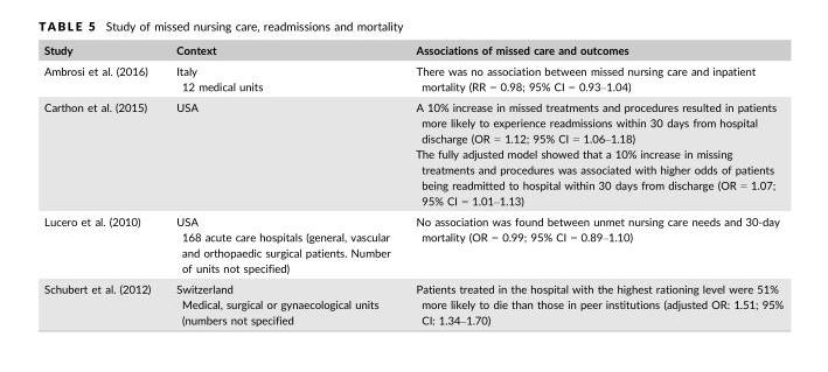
<table><thead><tr><td>Study</td><td>Context</td><td>Associations of missed care and outcomes</td></tr></thead><tbody><tr><td>Ambrosi et al. (2016)</td><td>Italy 12 medical units</td><td>There was no association between missed nursing care and inpatient mortality (RR = 0.98; 95% CI = 0.93–1.04)</td></tr><tr><td>Carthon et al. (2015)</td><td>USA</td><td>A 10% increase in missed treatments and procedures resulted in patients more likely to experience readmissions within 30 days from hospital discharge (OR = 1.12; 95% CI = 1.06–1.18) The fully adjusted model showed that a 10% increase in missing treatments and procedures was associated with higher odds of patients being readmitted to hospital within 30 days from discharge (OR = 1.07; 95% CI = 1.01–1.13)</td></tr><tr><td>Lucero et al. (2010)</td><td>USA 168 acute care hospitals (general, vascular and orthopaedic surgical patients. Number of units not specified)</td><td>No association was found between unmet nursing care needs and 30-day mortality (OR = 0.99; 95% CI = 0.89–1.10)</td></tr><tr><td>Schubert et al. (2012)</td><td>Switzerland Medical, surgical or gynaecological units (numbers not specified</td><td>Patients treated in the hospital with the highest rationing level were 51% more likely to die than those in peer institutions (adjusted OR: 1.51; 95% CI: 1.34–1.70)</td></tr></tbody></table>